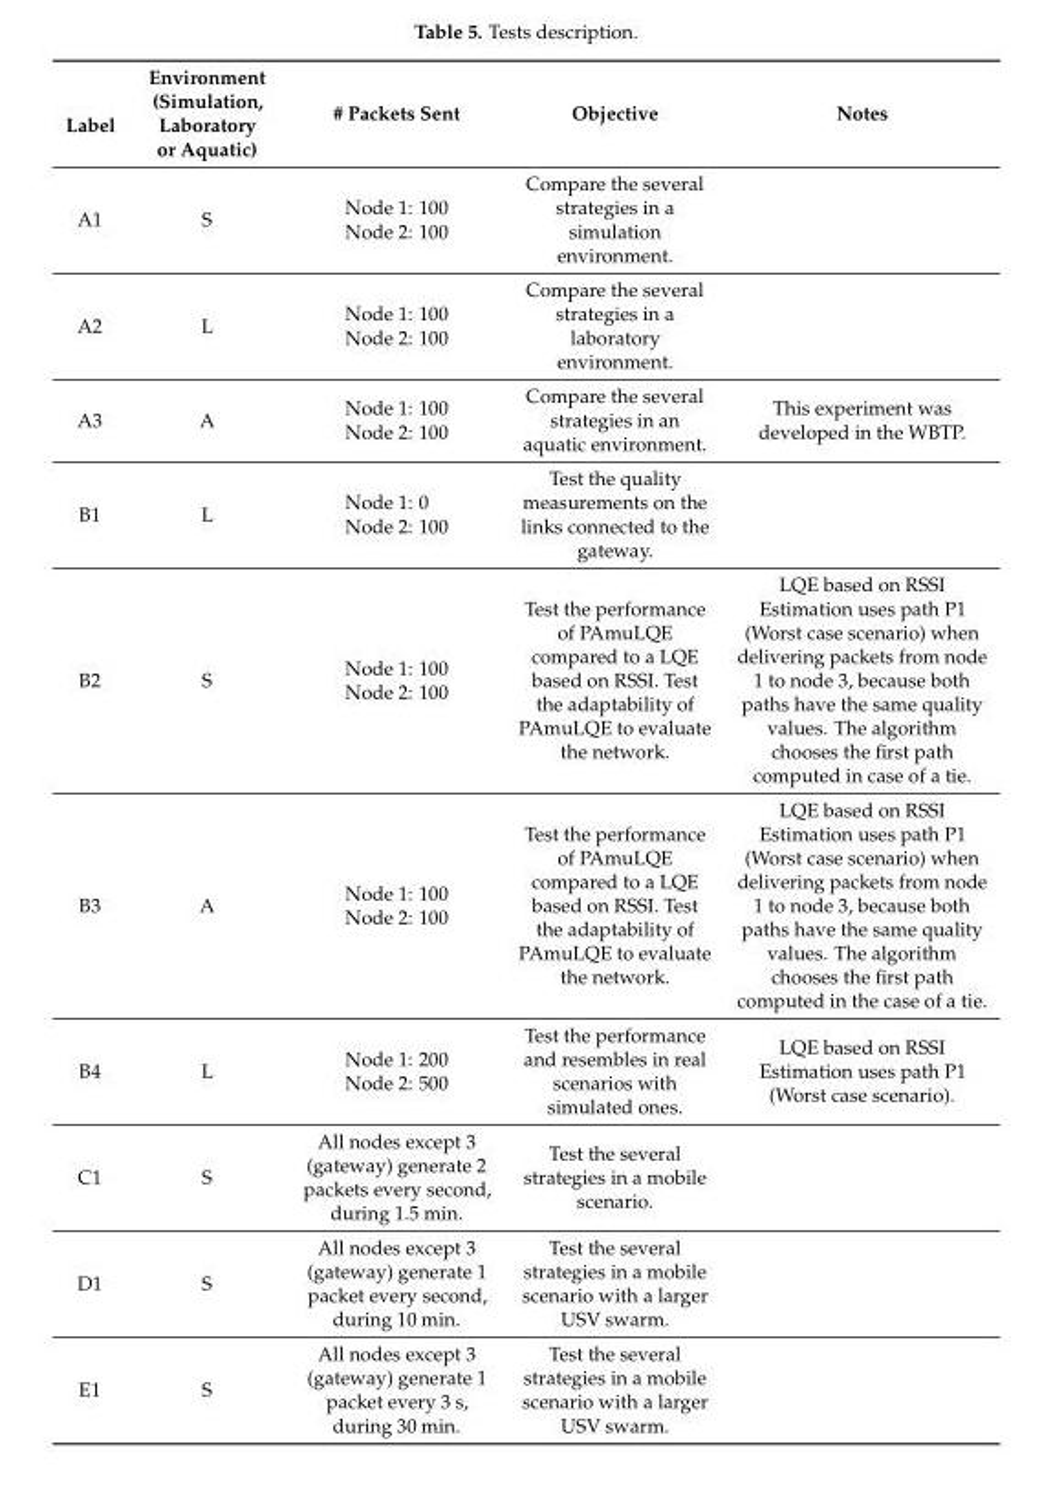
<table><thead><tr><td>Label</td><td>Environment (Simulation, Laboratory or Aquatic)</td><td># Packets Sent</td><td>Objective</td><td>Notes</td></tr></thead><tbody><tr><td>A1</td><td>S</td><td>Node 1: 100 Node 2: 100</td><td>Compare the several strategies in a simulation environment.</td><td></td></tr><tr><td>A2</td><td>L</td><td>Node 1: 100 Node 2: 100</td><td>Compare the several strategies in a laboratory environment.</td><td></td></tr><tr><td>A3</td><td>A</td><td>Node 1: 100 Node 2: 100</td><td>Compare the several strategies in an aquatic environment.</td><td>This experiment was developed in the WBTP.</td></tr><tr><td>B1</td><td>L</td><td>Node 1: 0 Node 2: 100</td><td>Test the quality measurements on the links connected to the gateway.</td><td></td></tr><tr><td>B2</td><td>S</td><td>Node 1: 100 Node 2: 100</td><td>Test the performance of PAmuLQE compared to a LQE based on RSSI. Test the adaptability of PAmuLQE to evaluate the network.</td><td>LQE based on RSSI Estimation uses path P1 (Worst case scenario) when delivering packets from node 1 to node 3, because both paths have the same quality values. The algorithm chooses the first path computed in case of a tie.</td></tr><tr><td>B3</td><td>A</td><td>Node 1: 100 Node 2: 100</td><td>Test the performance of PAmuLQE compared to a LQE based on RSSI. Test the adaptability of PAmuLQE to evaluate the network.</td><td>LQE based on RSSI Estimation uses path P1 (Worst case scenario) when delivering packets from node 1 to node 3, because both paths have the same quality values. The algorithm chooses the first path computed in the case of a tie.</td></tr><tr><td>B4</td><td>L</td><td>Node 1: 200 Node 2: 500</td><td>Test the performance and resembles in real scenarios with simulated ones.</td><td>LQE based on RSSI Estimation uses path P1 (Worst case scenario).</td></tr><tr><td>C1</td><td>S</td><td>All nodes except 3 (gateway) generate 2 packets every second, during 1.5 min.</td><td>Test the several strategies in a mobile scenario.</td><td></td></tr><tr><td>D1</td><td>S</td><td>All nodes except 3 (gateway) generate 1 packet every second, during 10 min.</td><td>Test the several strategies in a mobile scenario with a larger USV swarm.</td><td></td></tr><tr><td>E1</td><td>S</td><td>All nodes except 3 (gateway) generate 1 packet every 3 s, during 30 min.</td><td>Test the several strategies in a mobile scenario with a larger USV swarm.</td><td></td></tr></tbody></table>